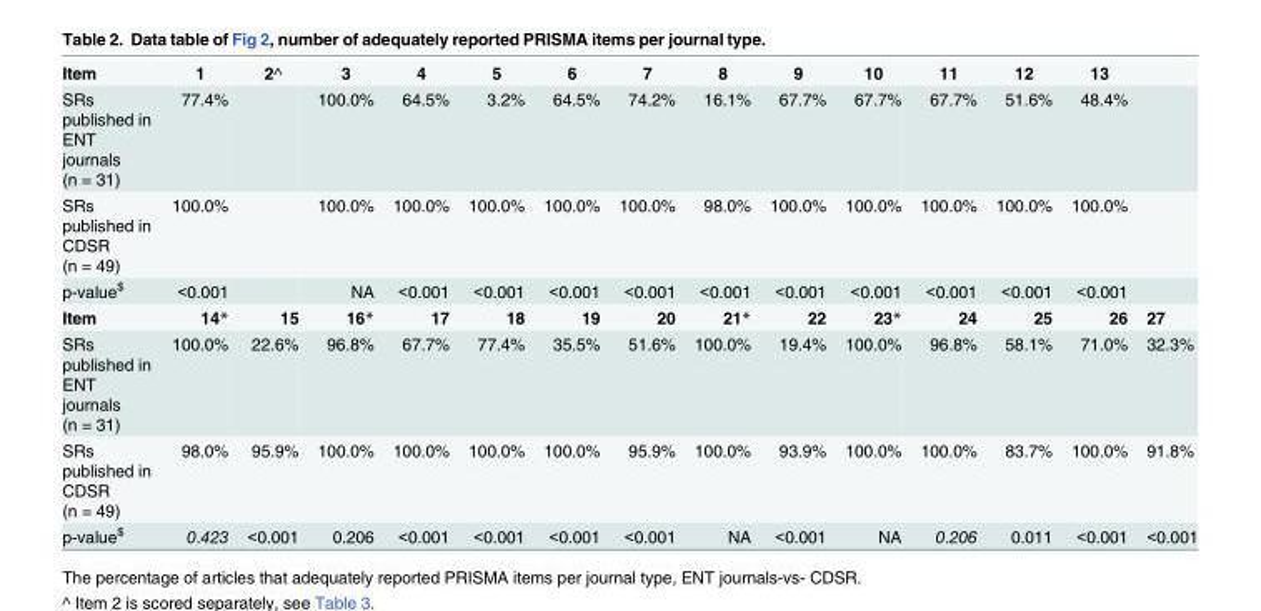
<table><tbody><tr><td>Item</td><td>1</td><td>2^</td><td>3</td><td>4</td><td>5</td><td>6</td><td>7</td><td>8</td><td>9</td><td>10</td><td>11</td><td>12</td><td>13</td><td></td></tr><tr><td>SRs published in ENT journals (n = 31)</td><td>77.4%</td><td></td><td>100.0%</td><td>64.5%</td><td>3.2%</td><td>64.5%</td><td>74.2%</td><td>16.1%</td><td>67.7%</td><td>67.7%</td><td>67.7%</td><td>51.6%</td><td>48.4%</td><td></td></tr><tr><td>SRs published in CDSR (n = 49)</td><td>100.0%</td><td></td><td>100.0%</td><td>100.0%</td><td>100.0%</td><td>100.0%</td><td>100.0%</td><td>98.0%</td><td>100.0%</td><td>100.0%</td><td>100.0%</td><td>100.0%</td><td>100.0%</td><td></td></tr><tr><td>p-value<sup>$</sup></td><td>&lt;0.001</td><td></td><td>NA</td><td>&lt;0.001</td><td>&lt;0.001</td><td>&lt;0.001</td><td>&lt;0.001</td><td>&lt;0.001</td><td>&lt;0.001</td><td>&lt;0.001</td><td>&lt;0.001</td><td>&lt;0.001</td><td>&lt;0.001</td><td></td></tr><tr><td>Item</td><td>14*</td><td>15</td><td>16*</td><td>17</td><td>18</td><td>19</td><td>20</td><td>21*</td><td>22</td><td>23*</td><td>24</td><td>25</td><td>26</td><td>27</td></tr><tr><td>SRs published in ENT journals (n = 31)</td><td>100.0%</td><td>22.6%</td><td>96.8%</td><td>67.7%</td><td>77.4%</td><td>35.5%</td><td>51.6%</td><td>100.0%</td><td>19.4%</td><td>100.0%</td><td>96.8%</td><td>58.1%</td><td>71.0%</td><td>32.3%</td></tr><tr><td>SRs published in CDSR (n = 49)</td><td>98.0%</td><td>95.9%</td><td>100.0%</td><td>100.0%</td><td>100.0%</td><td>100.0%</td><td>95.9%</td><td>100.0%</td><td>93.9%</td><td>100.0%</td><td>100.0%</td><td>83.7%</td><td>100.0%</td><td>91.8%</td></tr><tr><td>p-value<sup>$</sup></td><td>0.423</td><td>&lt;0.001</td><td>0.206</td><td>&lt;0.001</td><td>&lt;0.001</td><td>&lt;0.001</td><td>&lt;0.001</td><td>NA</td><td>&lt;0.001</td><td>NA</td><td>0.206</td><td>0.011</td><td>&lt;0.001</td><td>&lt;0.001</td></tr></tbody></table>